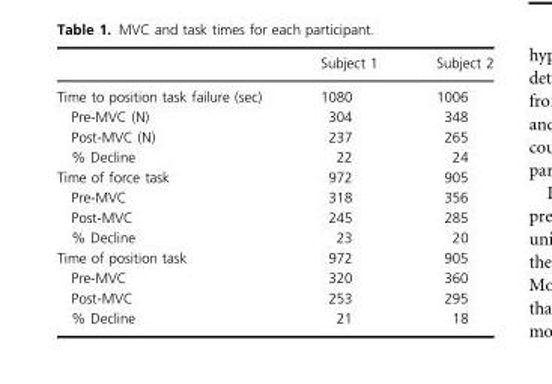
<table><thead><tr><td></td><td>Subject 1</td><td>Subject 2</td></tr></thead><tbody><tr><td>Time to position task failure (sec)</td><td>1080</td><td>1006</td></tr><tr><td>Pre-MVC (N)</td><td>304</td><td>348</td></tr><tr><td>Post-MVC (N)</td><td>237</td><td>265</td></tr><tr><td>% Decline</td><td>22</td><td>24</td></tr><tr><td>Time of force task</td><td>972</td><td>905</td></tr><tr><td>Pre-MVC</td><td>318</td><td>356</td></tr><tr><td>Post-MVC</td><td>245</td><td>285</td></tr><tr><td>% Decline</td><td>23</td><td>20</td></tr><tr><td>Time of position task</td><td>972</td><td>905</td></tr><tr><td>Pre-MVC</td><td>320</td><td>360</td></tr><tr><td>Post-MVC</td><td>253</td><td>295</td></tr><tr><td>% Decline</td><td>21</td><td>18</td></tr></tbody></table>